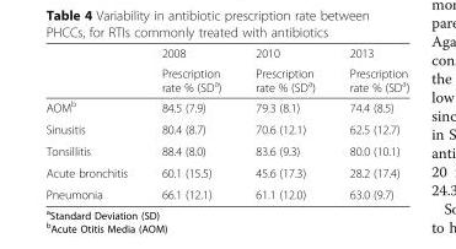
<table><thead><tr><td rowspan="2"></td><td rowspan="2">2008 Prescription rate % (SD<sup>a</sup>)</td><td rowspan="2">2010 Prescription rate % (SD<sup>a</sup>)</td><td rowspan="2">2013 Prescription rate % (SD<sup>a</sup>)</td></tr><tr></tr></thead><tbody><tr><td>AOM<sup>b</sup></td><td>84.5 (7.9)</td><td>79.3 (8.1)</td><td>74.4 (8.5)</td></tr><tr><td>Sinusitis</td><td>80.4 (8.7)</td><td>70.6 (12.1)</td><td>62.5 (12.7)</td></tr><tr><td>Tonsillitis</td><td>88.4 (8.0)</td><td>83.6 (9.3)</td><td>80.0 (10.1)</td></tr><tr><td>Acute bronchitis</td><td>60.1 (15.5)</td><td>45.6 (17.3)</td><td>28.2 (17.4)</td></tr><tr><td>Pneumonia</td><td>66.1 (12.1)</td><td>61.1 (12.0)</td><td>63.0 (9.7)</td></tr></tbody></table>